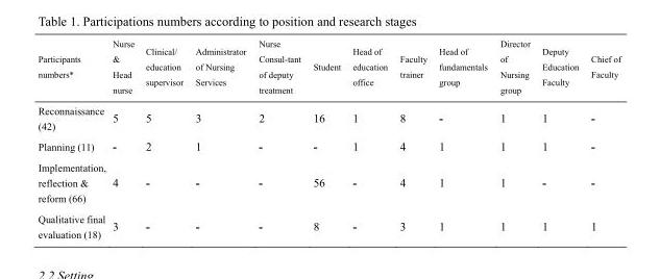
<table><thead><tr><td>Participants numbers*</td><td>Nurse &amp; Head nurse</td><td>Clinical/ education supervisor</td><td>Administrator of Nursing Services</td><td>Nurse Consul-tant of deputy treatment</td><td>Student</td><td>Head of education office</td><td>Faculty trainer</td><td>Head of fundamentals group</td><td>Director of Nursing group</td><td>Deputy Education Faculty</td><td>Chief of Faculty</td></tr></thead><tbody><tr><td>Reconnaissance (42)</td><td>5</td><td>5</td><td>3</td><td>2</td><td>16</td><td>1</td><td>8</td><td>-</td><td>1</td><td>1</td><td>-</td></tr><tr><td>Planning (11)</td><td>-</td><td>2</td><td>1</td><td>-</td><td>-</td><td>1</td><td>4</td><td>1</td><td>1</td><td>1</td><td>-</td></tr><tr><td>Implementation, reflection &amp; reform (66)</td><td>4</td><td>-</td><td>-</td><td>-</td><td>56</td><td>-</td><td>4</td><td>1</td><td>1</td><td>-</td><td>-</td></tr><tr><td>Qualitative final evaluation (18)</td><td>3</td><td>-</td><td>-</td><td>-</td><td>8</td><td>-</td><td>3</td><td>1</td><td>1</td><td>1</td><td>1</td></tr></tbody></table>